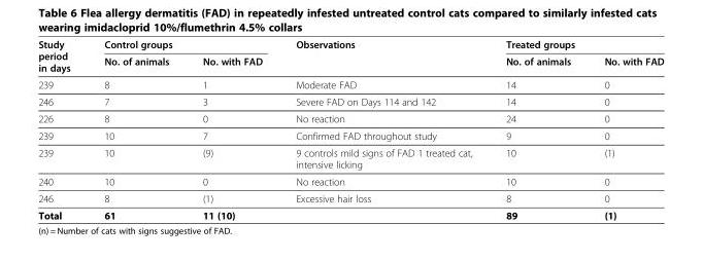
<table><thead><tr><td rowspan="2">Study period in days</td><td colspan="2">Control groups</td><td rowspan="2">Observations</td><td colspan="2">Treated groups</td></tr><tr><td>No. of animals</td><td>No. with FAD</td><td>No. of animals</td><td>No. with FAD</td></tr></thead><tbody><tr><td>239</td><td>8</td><td>1</td><td>Moderate FAD</td><td>14</td><td>0</td></tr><tr><td>246</td><td>7</td><td>3</td><td>Severe FAD on Days 114 and 142</td><td>14</td><td>0</td></tr><tr><td>226</td><td>8</td><td>0</td><td>No reaction</td><td>24</td><td>0</td></tr><tr><td>239</td><td>10</td><td>7</td><td>Confirmed FAD throughout study</td><td>9</td><td>0</td></tr><tr><td>239</td><td>10</td><td>(9)</td><td>9 controls mild signs of FAD 1 treated cat, intensive licking</td><td>10</td><td>(1)</td></tr><tr><td>240</td><td>10</td><td>0</td><td>No reaction</td><td>10</td><td>0</td></tr><tr><td>246</td><td>8</td><td>(1)</td><td>Excessive hair loss</td><td>8</td><td>0</td></tr><tr><td>Total</td><td>61</td><td>11 (10)</td><td></td><td>89</td><td>(1)</td></tr></tbody></table>